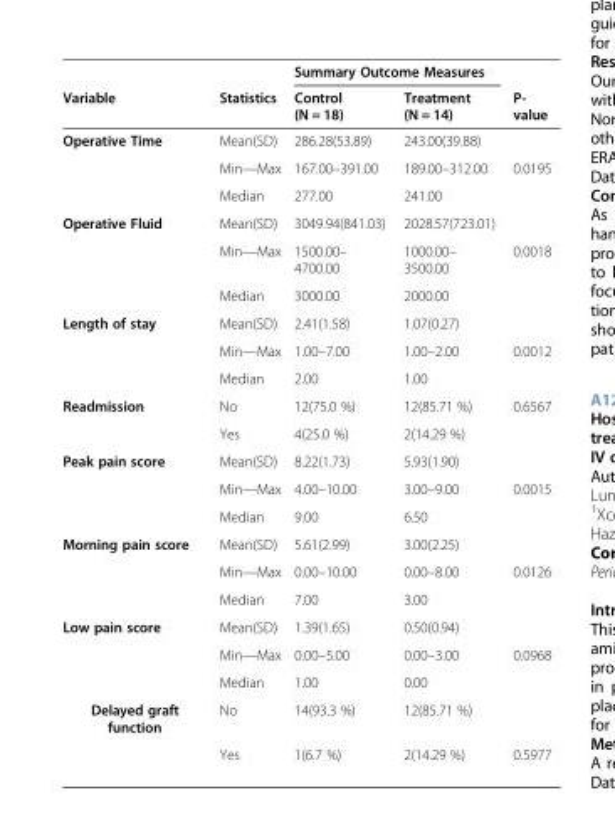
<table><thead><tr><td rowspan="2">Variable</td><td rowspan="2">Statistics</td><td colspan="2">Summary Outcome Measures</td><td rowspan="2">P- value</td></tr><tr><td>Control (N = 18)</td><td>Treatment (N = 14)</td></tr></thead><tbody><tr><td rowspan="3">Operative Time</td><td>Mean(SD)</td><td>286.28(53.89)</td><td>243.00(39.88)</td><td></td></tr><tr><td>Min—Max</td><td>167.00–391.00</td><td>189.00–312.00</td><td>0.0195</td></tr><tr><td>Median</td><td>277.00</td><td>241.00</td><td></td></tr><tr><td rowspan="3">Operative Fluid</td><td>Mean(SD)</td><td>3049.94(841.03)</td><td>2028.57(723.01)</td><td></td></tr><tr><td>Min—Max</td><td>1500.00– 4700.00</td><td>1000.00– 3500.00</td><td>0.0018</td></tr><tr><td>Median</td><td>3000.00</td><td>2000.00</td><td></td></tr><tr><td rowspan="3">Length of stay</td><td>Mean(SD)</td><td>2.41(1.58)</td><td>1.07(0.27)</td><td></td></tr><tr><td>Min—Max</td><td>1.00–7.00</td><td>1.00–2.00</td><td>0.0012</td></tr><tr><td>Median</td><td>2.00</td><td>1.00</td><td></td></tr><tr><td rowspan="2">Readmission</td><td>No</td><td>12(75.0 %)</td><td>12(85.71 %)</td><td>0.6567</td></tr><tr><td>Yes</td><td>4(25.0 %)</td><td>2(14.29 %)</td><td></td></tr><tr><td rowspan="3">Peak pain score</td><td>Mean(SD)</td><td>8.22(1.73)</td><td>5.93(1.90)</td><td></td></tr><tr><td>Min—Max</td><td>4.00–10.00</td><td>3.00–9.00</td><td>0.0015</td></tr><tr><td>Median</td><td>9.00</td><td>6.50</td><td></td></tr><tr><td rowspan="3">Morning pain score</td><td>Mean(SD)</td><td>5.61(2.99)</td><td>3.00(2.25)</td><td></td></tr><tr><td>Min—Max</td><td>0.00–10.00</td><td>0.00–8.00</td><td>0.0126</td></tr><tr><td>Median</td><td>7.00</td><td>3.00</td><td></td></tr><tr><td rowspan="3">Low pain score</td><td>Mean(SD)</td><td>1.39(1.65)</td><td>0.50(0.94)</td><td></td></tr><tr><td>Min—Max</td><td>0.00–5.00</td><td>0.00–3.00</td><td>0.0968</td></tr><tr><td>Median</td><td>1.00</td><td>0.00</td><td></td></tr><tr><td rowspan="2">Delayed graft function</td><td>No</td><td>14(93.3 %)</td><td>12(85.71 %)</td><td></td></tr><tr><td>Yes</td><td>1(6.7 %)</td><td>2(14.29 %)</td><td>0.5977</td></tr></tbody></table>